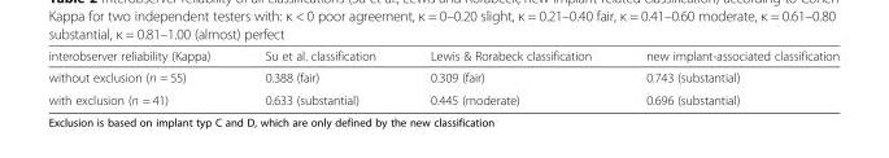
<table><thead><tr><td>interobserver reliability (Kappa)</td><td>Su et al. classification</td><td>Lewis &amp; Rorabeck classification</td><td>new implant-associated classification</td></tr></thead><tbody><tr><td>without exclusion (n = 55)</td><td>0.388 (fair)</td><td>0.309 (fair)</td><td>0.743 (substantial)</td></tr><tr><td>with exclusion (n = 41)</td><td>0.633 (substantial)</td><td>0.445 (moderate)</td><td>0.696 (substantial)</td></tr></tbody></table>